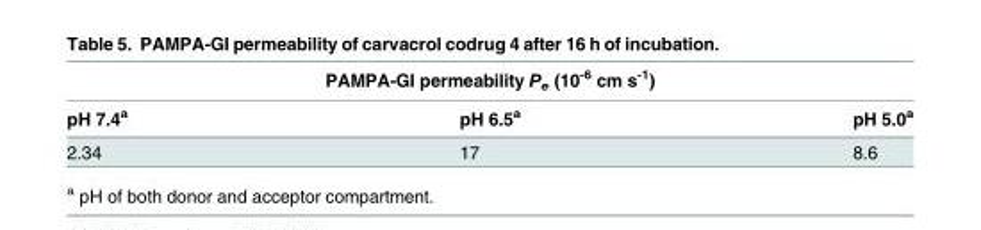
<table><thead><tr><td colspan="3">PAMPA-GI permeability P<sub>e</sub> (10<sup>-6</sup> cm s<sup>-1</sup>)</td></tr><tr><td>pH 7.4<sup>a</sup></td><td>pH 6.5<sup>a</sup></td><td>pH 5.0<sup>a</sup></td></tr></thead><tbody><tr><td>2.34</td><td>17</td><td>8.6</td></tr></tbody></table>